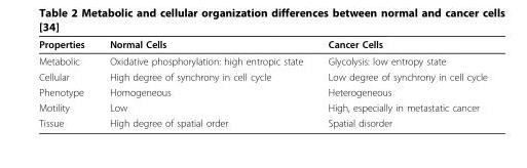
<table><thead><tr><td>Properties</td><td>Normal Cells</td><td>Cancer Cells</td></tr></thead><tbody><tr><td>Metabolic</td><td>Oxidative phosphorylation: high entropic state</td><td>Glycolysis: low entropy state</td></tr><tr><td>Cellular</td><td>High degree of synchrony in cell cycle</td><td>Low degree of synchrony in cell cycle</td></tr><tr><td>Phenotype</td><td>Homogeneous</td><td>Heterogeneous</td></tr><tr><td>Motility</td><td>Low</td><td>High, especially in metastatic cancer</td></tr><tr><td>Tissue</td><td>High degree of spatial order</td><td>Spatial disorder</td></tr></tbody></table>